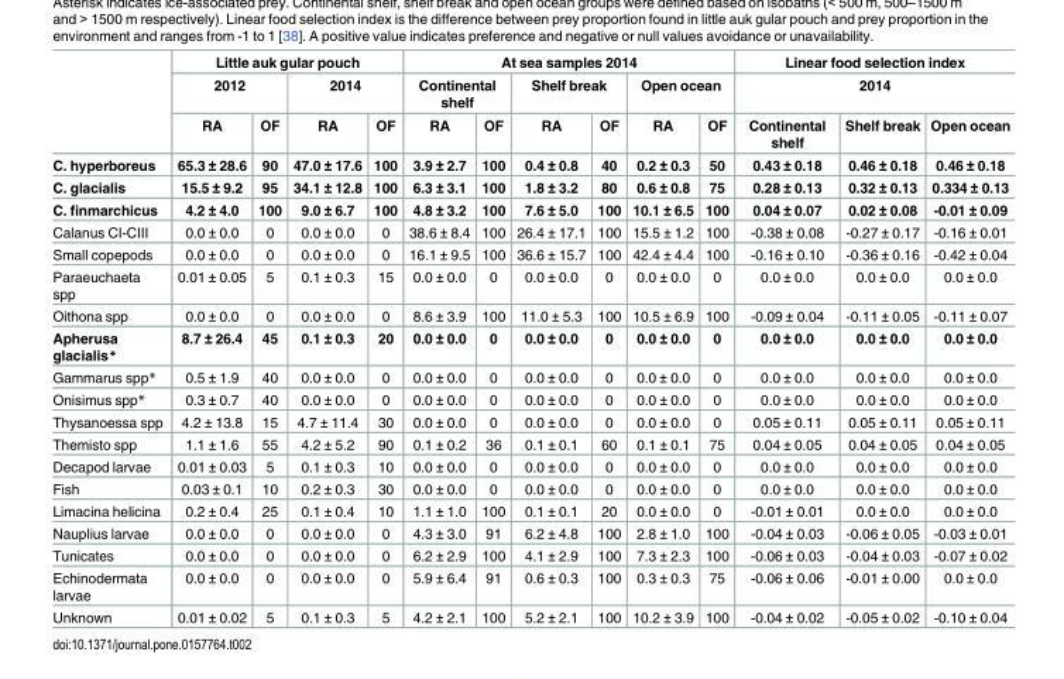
<table><thead><tr><td rowspan="3"></td><td colspan="4">Little auk gular pouch</td><td colspan="6">At sea samples 2014</td><td rowspan="2" colspan="3">Linear food selection index 2014</td></tr><tr><td colspan="2">2012</td><td colspan="2">2014</td><td colspan="2">Continental shelf</td><td colspan="2">Shelf break</td><td colspan="2">Open ocean</td></tr><tr><td>RA</td><td>OF</td><td>RA</td><td>OF</td><td>RA</td><td>OF</td><td>RA</td><td>OF</td><td>RA</td><td>OF</td><td>Continental shelf</td><td>Shelf break</td><td>Open ocean</td></tr></thead><tbody><tr><td>C. hyperboreus</td><td>65.3 ± 28.6</td><td>90</td><td>47.0 ± 17.6</td><td>100</td><td>3.9 ± 2.7</td><td>100</td><td>0.4 ± 0.8</td><td>40</td><td>0.2 ± 0.3</td><td>50</td><td>0.43 ± 0.18</td><td>0.46 ± 0.18</td><td>0.46 ± 0.18</td></tr><tr><td>C. glacialis</td><td>15.5 ± 9.2</td><td>95</td><td>34.1 ± 12.8</td><td>100</td><td>6.3 ± 3.1</td><td>100</td><td>1.8 ± 3.2</td><td>80</td><td>0.6 ± 0.8</td><td>75</td><td>0.28 ± 0.13</td><td>0.32 ± 0.13</td><td>0.334 ± 0.13</td></tr><tr><td>C. finmarchicus</td><td>4.2 ± 4.0</td><td>100</td><td>9.0 ± 6.7</td><td>100</td><td>4.8 ± 3.2</td><td>100</td><td>7.6 ± 5.0</td><td>100</td><td>10.1 ± 6.5</td><td>100</td><td>0.04 ± 0.07</td><td>0.02 ± 0.08</td><td>-0.01 ± 0.09</td></tr><tr><td>Calanus CI-CIII</td><td>0.0 ± 0.0</td><td>0</td><td>0.0 ± 0.0</td><td>0</td><td>38.6 ± 8.4</td><td>100</td><td>26.4 ± 17.1</td><td>100</td><td>15.5 ± 1.2</td><td>100</td><td>-0.38 ± 0.08</td><td>-0.27 ± 0.17</td><td>-0.16 ± 0.01</td></tr><tr><td>Small copepods</td><td>0.0 ± 0.0</td><td>0</td><td>0.0 ± 0.0</td><td>0</td><td>16.1 ± 9.5</td><td>100</td><td>36.6 ± 15.7</td><td>100</td><td>42.4 ± 4.4</td><td>100</td><td>-0.16 ± 0.10</td><td>-0.36 ± 0.16</td><td>-0.42 ± 0.04</td></tr><tr><td>Paraeuchaeta spp</td><td>0.01 ± 0.05</td><td>5</td><td>0.1 ± 0.3</td><td>15</td><td>0.0 ± 0.0</td><td>0</td><td>0.0 ± 0.0</td><td>0</td><td>0.0 ± 0.0</td><td>0</td><td>0.0 ± 0.0</td><td>0.0 ± 0.0</td><td>0.0 ± 0.0</td></tr><tr><td>Oithona spp</td><td>0.0 ± 0.0</td><td>0</td><td>0.0 ± 0.0</td><td>0</td><td>8.6 ± 3.9</td><td>100</td><td>11.0 ± 5.3</td><td>100</td><td>10.5 ± 6.9</td><td>100</td><td>-0.09 ± 0.04</td><td>-0.11 ± 0.05</td><td>-0.11 ± 0.07</td></tr><tr><td>Apherusa glacialis*</td><td>8.7 ± 26.4</td><td>45</td><td>0.1 ± 0.3</td><td>20</td><td>0.0 ± 0.0</td><td>0</td><td>0.0 ± 0.0</td><td>0</td><td>0.0 ± 0.0</td><td>0</td><td>0.0 ± 0.0</td><td>0.0 ± 0.0</td><td>0.0 ± 0.0</td></tr><tr><td>Gammarus spp*</td><td>0.5 ± 1.9</td><td>40</td><td>0.0 ± 0.0</td><td>0</td><td>0.0 ± 0.0</td><td>0</td><td>0.0 ± 0.0</td><td>0</td><td>0.0 ± 0.0</td><td>0</td><td>0.0 ± 0.0</td><td>0.0 ± 0.0</td><td>0.0 ± 0.0</td></tr><tr><td>Onisimus spp*</td><td>0.3 ± 0.7</td><td>40</td><td>0.0 ± 0.0</td><td>0</td><td>0.0 ± 0.0</td><td>0</td><td>0.0 ± 0.0</td><td>0</td><td>0.0 ± 0.0</td><td>0</td><td>0.0 ± 0.0</td><td>0.0 ± 0.0</td><td>0.0 ± 0.0</td></tr><tr><td>Thysanoessa spp</td><td>4.2 ± 13.8</td><td>15</td><td>4.7 ± 11.4</td><td>30</td><td>0.0 ± 0.0</td><td>0</td><td>0.0 ± 0.0</td><td>0</td><td>0.0 ± 0.0</td><td>0</td><td>0.05 ± 0.11</td><td>0.05 ± 0.11</td><td>0.05 ± 0.11</td></tr><tr><td>Themisto spp</td><td>1.1 ± 1.6</td><td>55</td><td>4.2 ± 5.2</td><td>90</td><td>0.1 ± 0.2</td><td>36</td><td>0.1 ± 0.1</td><td>60</td><td>0.1 ± 0.1</td><td>75</td><td>0.04 ± 0.05</td><td>0.04 ± 0.05</td><td>0.04 ± 0.05</td></tr><tr><td>Decapod larvae</td><td>0.01 ± 0.03</td><td>5</td><td>0.1 ± 0.3</td><td>10</td><td>0.0 ± 0.0</td><td>0</td><td>0.0 ± 0.0</td><td>0</td><td>0.0 ± 0.0</td><td>0</td><td>0.0 ± 0.0</td><td>0.0 ± 0.0</td><td>0.0 ± 0.0</td></tr><tr><td>Fish</td><td>0.03 ± 0.1</td><td>10</td><td>0.2 ± 0.3</td><td>30</td><td>0.0 ± 0.0</td><td>0</td><td>0.0 ± 0.0</td><td>0</td><td>0.0 ± 0.0</td><td>0</td><td>0.0 ± 0.0</td><td>0.0 ± 0.0</td><td>0.0 ± 0.0</td></tr><tr><td>Limacina helicina</td><td>0.2 ± 0.4</td><td>25</td><td>0.1 ± 0.4</td><td>10</td><td>1.1 ± 1.0</td><td>100</td><td>0.1 ± 0.1</td><td>20</td><td>0.0 ± 0.0</td><td>0</td><td>-0.01 ± 0.01</td><td>0.0 ± 0.0</td><td>0.0 ± 0.0</td></tr><tr><td>Nauplius larvae</td><td>0.0 ± 0.0</td><td>0</td><td>0.0 ± 0.0</td><td>0</td><td>4.3 ± 3.0</td><td>91</td><td>6.2 ± 4.8</td><td>100</td><td>2.8 ± 1.0</td><td>100</td><td>-0.04 ± 0.03</td><td>-0.06 ± 0.05</td><td>-0.03 ± 0.01</td></tr><tr><td>Tunicates</td><td>0.0 ± 0.0</td><td>0</td><td>0.0 ± 0.0</td><td>0</td><td>6.2 ± 2.9</td><td>100</td><td>4.1 ± 2.9</td><td>100</td><td>7.3 ± 2.3</td><td>100</td><td>-0.06 ± 0.03</td><td>-0.04 ± 0.03</td><td>-0.07 ± 0.02</td></tr><tr><td>Echinodermata larvae</td><td>0.0 ± 0.0</td><td>0</td><td>0.0 ± 0.0</td><td>0</td><td>5.9 ± 6.4</td><td>91</td><td>0.6 ± 0.3</td><td>100</td><td>0.3 ± 0.3</td><td>75</td><td>-0.06 ± 0.06</td><td>-0.01 ± 0.00</td><td>0.0 ± 0.0</td></tr><tr><td>Unknown</td><td>0.01 ± 0.02</td><td>5</td><td>0.1 ± 0.3</td><td>5</td><td>4.2 ± 2.1</td><td>100</td><td>5.2 ± 2.1</td><td>100</td><td>10.2 ± 3.9</td><td>100</td><td>-0.04 ± 0.02</td><td>-0.05 ± 0.02</td><td>-0.10 ± 0.04</td></tr></tbody></table>